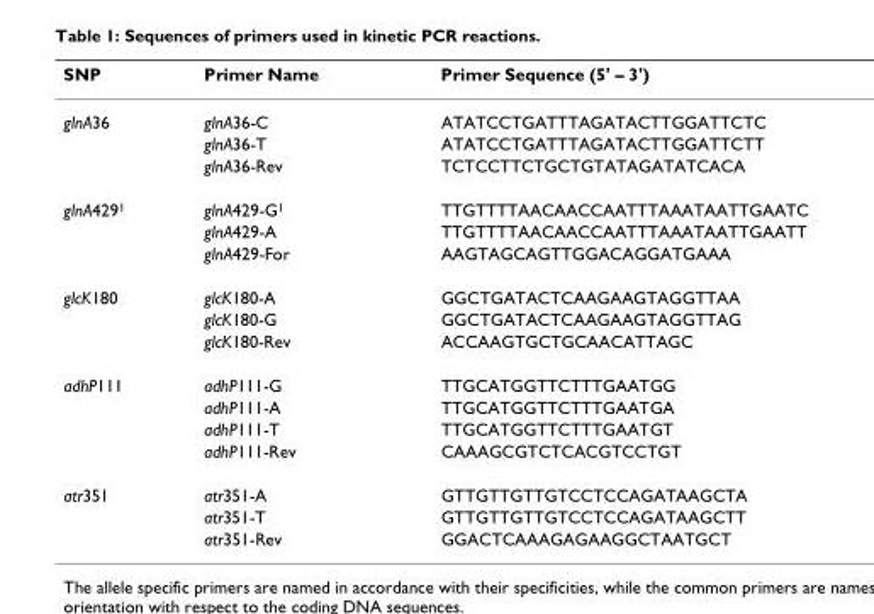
<table><thead><tr><td>SNP</td><td>Primer Name</td><td>Primer Sequence (5&#x27; – 3&#x27;)</td></tr></thead><tbody><tr><td rowspan="3">glnA36</td><td>glnA36-C</td><td>ATATCCTGATTTAGATACTTGGATTCTC</td></tr><tr><td>glnA36-T</td><td>ATATCCTGATTTAGATACTTGGATTCTT</td></tr><tr><td>glnA36-Rev</td><td>TCTCCTTCTGCTGTATAGATATCACA</td></tr><tr><td rowspan="3">glnA429<sup>1</sup></td><td>glnA429-G<sup>1</sup></td><td>TTGTTTTAACAACCAATTTAAATAATTGAATC</td></tr><tr><td>glnA429-A</td><td>TTGTTTTAACAACCAATTTAAATAATTGAATT</td></tr><tr><td>glnA429-For</td><td>AAGTAGCAGTTGGACAGGATGAAA</td></tr><tr><td rowspan="3">glcK180</td><td>glcK180-A</td><td>GGCTGATACTCAAGAAGTAGGTTAA</td></tr><tr><td>glcK180-G</td><td>GGCTGATACTCAAGAAGTAGGTTAG</td></tr><tr><td>glcK180-Rev</td><td>ACCAAGTGCTGCAACATTAGC</td></tr><tr><td rowspan="4">adhP111</td><td>adhP111-G</td><td>TTGCATGGTTCTTTGAATGG</td></tr><tr><td>adhP111-A</td><td>TTGCATGGTTCTTTGAATGA</td></tr><tr><td>adhP111-T</td><td>TTGCATGGTTCTTTGAATGT</td></tr><tr><td>adhP111-Rev</td><td>CAAAGCGTCTCACGTCCTGT</td></tr><tr><td rowspan="3">atr351</td><td>atr351-A</td><td>GTTGTTGTTGTCCTCCAGATAAGCTA</td></tr><tr><td>atr351-T</td><td>GTTGTTGTTGTCCTCCAGATAAGCTT</td></tr><tr><td>atr351-Rev</td><td>GGACTCAAAGAGAAGGCTAATGCT</td></tr></tbody></table>